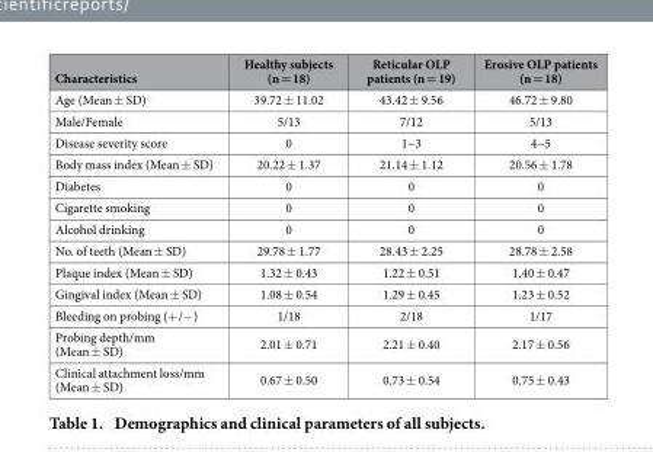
<table><thead><tr><td>Characteristics</td><td>Healthy subjects (n = 18)</td><td>Reticular OLP patients (n = 19)</td><td>Erosive OLP patients (n = 18)</td></tr></thead><tbody><tr><td>Age (Mean ± SD)</td><td>39.72 ± 11.02</td><td>43.42 ± 9.56</td><td>46.72 ± 9.80</td></tr><tr><td>Male/Female</td><td>5/13</td><td>7/12</td><td>5/13</td></tr><tr><td>Disease severity score</td><td>0</td><td>1~3</td><td>4~5</td></tr><tr><td>Body mass index (Mean ± SD)</td><td>20.22 ± 1.37</td><td>21.14 ± 1.12</td><td>20.56 ± 1.78</td></tr><tr><td>Diabetes</td><td>0</td><td>0</td><td>0</td></tr><tr><td>Cigarette smoking</td><td>0</td><td>0</td><td>0</td></tr><tr><td>Alcohol drinking</td><td>0</td><td>0</td><td>0</td></tr><tr><td>No. of teeth (Mean ± SD)</td><td>29.78 ± 1.77</td><td>28.43 ± 2.25</td><td>28.78 ± 2.58</td></tr><tr><td>Plaque index (Mean ± SD)</td><td>1.32 ± 0.43</td><td>1.22 ± 0.51</td><td>1.40 ± 0.47</td></tr><tr><td>Gingival index (Mean ± SD)</td><td>1.08 ± 0.54</td><td>1.29 ± 0.45</td><td>1.23 ± 0.52</td></tr><tr><td>Bleeding on probing (+ /− )</td><td>1/18</td><td>2/18</td><td>1/17</td></tr><tr><td>Probing depth/mm (Mean ± SD)</td><td>2.01 ± 0.71</td><td>2.21 ± 0.40</td><td>2.17 ± 0.56</td></tr><tr><td>Clinical attachment loss/mm (Mean ± SD)</td><td>0.67 ± 0.50</td><td>0.73 ± 0.54</td><td>0.75 ± 0.43</td></tr></tbody></table>